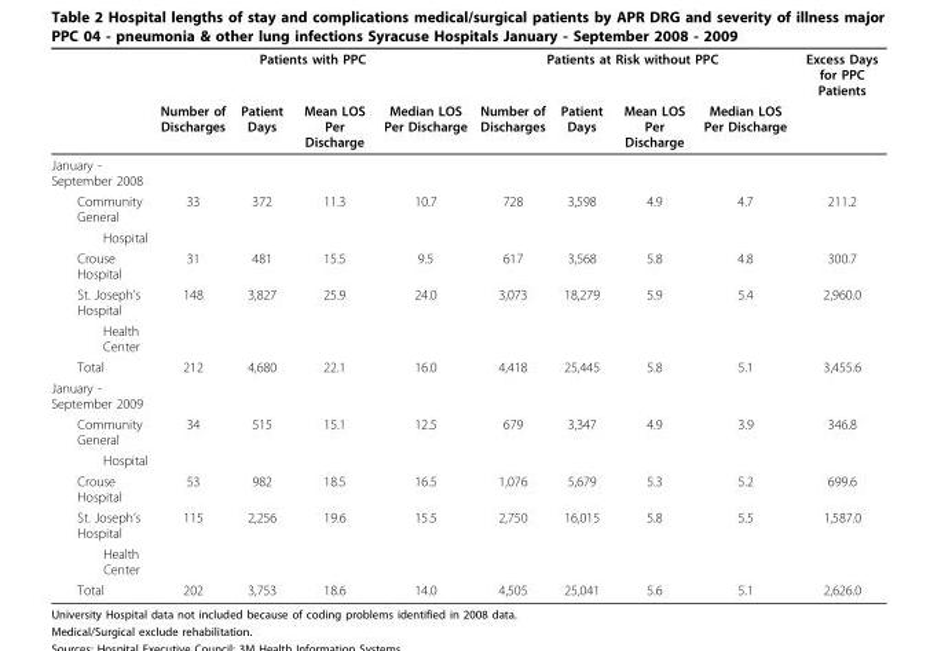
<table><thead><tr><td rowspan="2"></td><td colspan="4">Patients with PPC</td><td colspan="4">Patients at Risk without PPC</td><td rowspan="2">Excess Days for PPC Patients</td></tr><tr><td>Number of Discharges</td><td>Patient Days</td><td>Mean LOS Per Discharge</td><td>Median LOS Per Discharge</td><td>Number of Discharges</td><td>Patient Days</td><td>Mean LOS Per Discharge</td><td>Median LOS Per Discharge</td></tr></thead><tbody><tr><td colspan="10">January - September 2008</td></tr><tr><td>Community General</td><td>33</td><td>372</td><td>11.3</td><td>10.7</td><td>728</td><td>3,598</td><td>4.9</td><td>4.7</td><td>211.2</td></tr><tr><td colspan="10">Hospital</td></tr><tr><td>Crouse Hospital</td><td>31</td><td>481</td><td>15.5</td><td>9.5</td><td>617</td><td>3,568</td><td>5.8</td><td>4.8</td><td>300.7</td></tr><tr><td>St. Joseph’s Hospital</td><td>148</td><td>3,827</td><td>25.9</td><td>24.0</td><td>3,073</td><td>18,279</td><td>5.9</td><td>5.4</td><td>2,960.0</td></tr><tr><td colspan="10">Health Center</td></tr><tr><td>Total</td><td>212</td><td>4,680</td><td>22.1</td><td>16.0</td><td>4,418</td><td>25,445</td><td>5.8</td><td>5.1</td><td>3,455.6</td></tr><tr><td colspan="10">January - September 2009</td></tr><tr><td>Community General</td><td>34</td><td>515</td><td>15.1</td><td>12.5</td><td>679</td><td>3,347</td><td>4.9</td><td>3.9</td><td>346.8</td></tr><tr><td colspan="10">Hospital</td></tr><tr><td>Crouse Hospital</td><td>53</td><td>982</td><td>18.5</td><td>16.5</td><td>1,076</td><td>5,679</td><td>5.3</td><td>5.2</td><td>699.6</td></tr><tr><td>St. Joseph’s Hospital</td><td>115</td><td>2,256</td><td>19.6</td><td>15.5</td><td>2,750</td><td>16,015</td><td>5.8</td><td>5.5</td><td>1,587.0</td></tr><tr><td colspan="10">Health Center</td></tr><tr><td>Total</td><td>202</td><td>3,753</td><td>18.6</td><td>14.0</td><td>4,505</td><td>25,041</td><td>5.6</td><td>5.1</td><td>2,626.0</td></tr></tbody></table>